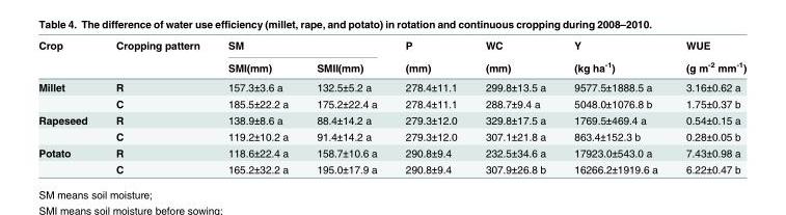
<table><thead><tr><td rowspan="2">Crop</td><td rowspan="2">Cropping pattern</td><td colspan="2">SM</td><td rowspan="2">P (mm)</td><td rowspan="2">WC (mm)</td><td rowspan="2">Y (kg ha<sup>-1</sup>)</td><td rowspan="2">WUE (g m<sup>-2</sup> mm<sup>-1</sup>)</td></tr><tr><td>SMI(mm)</td><td>SMII(mm)</td></tr></thead><tbody><tr><td rowspan="2">Millet</td><td>R</td><td>157.3±3.6 a</td><td>132.5±5.2 a</td><td>278.4±11.1</td><td>299.8±13.5 a</td><td>9577.5±1888.5 a</td><td>3.16±0.62 a</td></tr><tr><td>C</td><td>185.5±22.2 a</td><td>175.2±22.4 a</td><td>278.4±11.1</td><td>288.7±9.4 a</td><td>5048.0±1076.8 b</td><td>1.75±0.37 b</td></tr><tr><td rowspan="2">Rapeseed</td><td>R</td><td>138.9±8.6 a</td><td>88.4±14.2 a</td><td>279.3±12.0</td><td>329.8±17.5 a</td><td>1769.5±469.4 a</td><td>0.54±0.15 a</td></tr><tr><td>C</td><td>119.2±10.2 a</td><td>91.4±14.2 a</td><td>279.3±12.0</td><td>307.1±21.8 a</td><td>863.4±152.3 b</td><td>0.28±0.05 b</td></tr><tr><td rowspan="2">Potato</td><td>R</td><td>118.6±22.4 a</td><td>158.7±10.6 a</td><td>290.8±9.4</td><td>232.5±34.6 a</td><td>17923.0±543.0 a</td><td>7.43±0.98 a</td></tr><tr><td>C</td><td>165.2±32.2 a</td><td>195.0±17.9 a</td><td>290.8±9.4</td><td>307.9±26.8 b</td><td>16266.2±1919.6 a</td><td>6.22±0.47 b</td></tr></tbody></table>